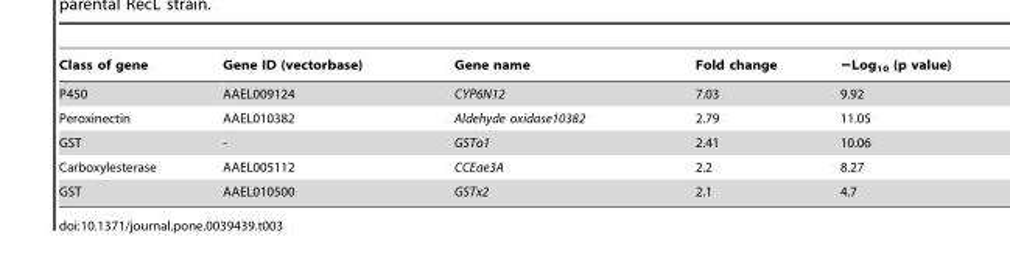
<table><thead><tr><td>Class of gene</td><td>Gene ID (vectorbase)</td><td>Gene name</td><td>Fold change</td><td>−Log<sub>10</sub> (p value)</td></tr></thead><tbody><tr><td>P450</td><td>AAEL009124</td><td>CYP6N12</td><td>7.03</td><td>9.92</td></tr><tr><td>Peroxinectin</td><td>AAEL010382</td><td>Aldehyde oxidase10382</td><td>2.79</td><td>11.05</td></tr><tr><td>GST</td><td>-</td><td>GSTo1</td><td>2.41</td><td>10.06</td></tr><tr><td>Carboxylesterase</td><td>AAEL005112</td><td>CCEae3A</td><td>2.2</td><td>8.27</td></tr><tr><td>GST</td><td>AAEL010500</td><td>GSTx2</td><td>2.1</td><td>4.7</td></tr></tbody></table>